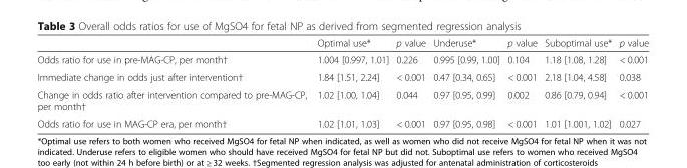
<table><thead><tr><td></td><td>Optimal use*</td><td>p value</td><td>Underuse*</td><td>p value</td><td>Suboptimal use*</td><td>p value</td></tr></thead><tbody><tr><td>Odds ratio for use in pre-MAG-CP, per month†</td><td>1.004 [0.997, 1.01]</td><td>0.226</td><td>0.995 [0.99, 1.00]</td><td>0.104</td><td>1.18 [1.08, 1.28]</td><td>&lt; 0.001</td></tr><tr><td>Immediate change in odds just after intervention†</td><td>1.84 [1.51, 2.24]</td><td>&lt; 0.001</td><td>0.47 [0.34, 0.65]</td><td>&lt; 0.001</td><td>2.18 [1.04, 4.58]</td><td>0.038</td></tr><tr><td>Change in odds ratio after intervention compared to pre-MAG-CP, per month†</td><td>1.02 [1.00, 1.04]</td><td>0.044</td><td>0.97 [0.95, 0.99]</td><td>0.002</td><td>0.86 [0.79, 0.94]</td><td>&lt; 0.001</td></tr><tr><td>Odds ratio for use in MAG-CP era, per month†</td><td>1.02 [1.01, 1.03]</td><td>&lt; 0.001</td><td>0.97 [0.95, 0.98]</td><td>&lt; 0.001</td><td>1.01 [1.001, 1.02]</td><td>0.027</td></tr></tbody></table>